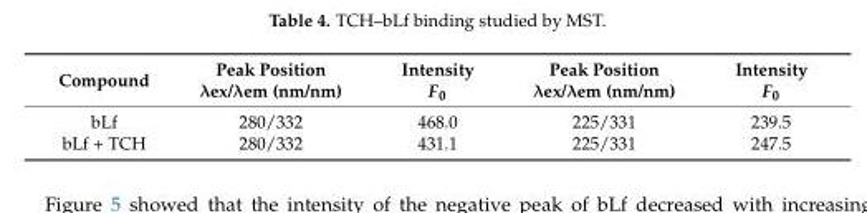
<table><thead><tr><td>Compound</td><td>Peak Position λex/λem (nm/nm)</td><td>Intensity F<sub>0</sub></td><td>Peak Position λex/λem (nm/nm)</td><td>Intensity F<sub>0</sub></td></tr></thead><tbody><tr><td>bLf</td><td>280/332</td><td>468.0</td><td>225/331</td><td>239.5</td></tr><tr><td>bLf + TCH</td><td>280/332</td><td>431.1</td><td>225/331</td><td>247.5</td></tr></tbody></table>